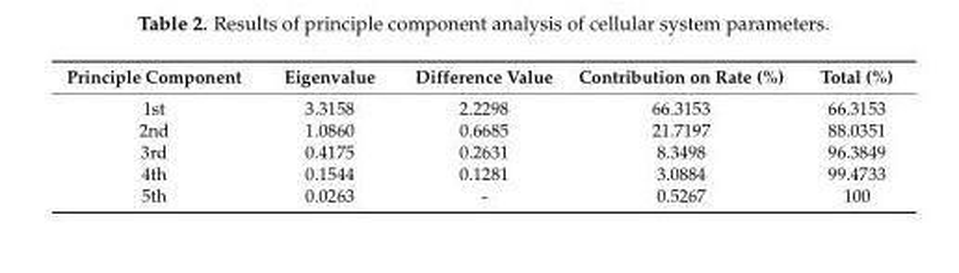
<table><thead><tr><td>Principle Component</td><td>Eigenvalue</td><td>Difference Value</td><td>Contribution on Rate (%)</td><td>Total (%)</td></tr></thead><tbody><tr><td>1st</td><td>3.3158</td><td>2.2298</td><td>66.3153</td><td>66.3153</td></tr><tr><td>2nd</td><td>1.0860</td><td>0.6685</td><td>21.7197</td><td>88.0351</td></tr><tr><td>3rd</td><td>0.4175</td><td>0.2631</td><td>8.3498</td><td>96.3849</td></tr><tr><td>4th</td><td>0.1544</td><td>0.1281</td><td>3.0884</td><td>99.4733</td></tr><tr><td>5th</td><td>0.0263</td><td>-</td><td>0.5267</td><td>100</td></tr></tbody></table>